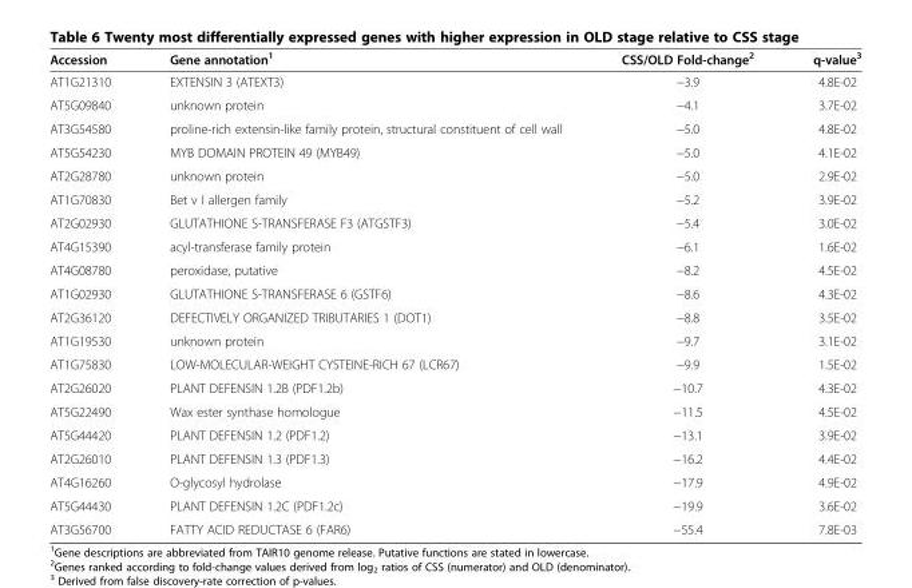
<table><thead><tr><td>Accession</td><td>Gene annotation<sup>1</sup></td><td>CSS/OLD Fold-change<sup>2</sup></td><td>q-value<sup>3</sup></td></tr></thead><tbody><tr><td>AT1G21310</td><td>EXTENSIN 3 (ATEXT3)</td><td>−3.9</td><td>4.8E-02</td></tr><tr><td>AT5G09840</td><td>unknown protein</td><td>−4.1</td><td>3.7E-02</td></tr><tr><td>AT3G54580</td><td>proline-rich extensin-like family protein, structural constituent of cell wall</td><td>−5.0</td><td>4.8E-02</td></tr><tr><td>AT5G54230</td><td>MYB DOMAIN PROTEIN 49 (MYB49)</td><td>−5.0</td><td>4.1E-02</td></tr><tr><td>AT2G28780</td><td>unknown protein</td><td>−5.0</td><td>2.9E-02</td></tr><tr><td>AT1G70830</td><td>Bet v I allergen family</td><td>−5.2</td><td>3.9E-02</td></tr><tr><td>AT2G02930</td><td>GLUTATHIONE S-TRANSFERASE F3 (ATGSTF3)</td><td>−5.4</td><td>3.0E-02</td></tr><tr><td>AT4G15390</td><td>acyl-transferase family protein</td><td>−6.1</td><td>1.6E-02</td></tr><tr><td>AT4G08780</td><td>peroxidase, putative</td><td>−8.2</td><td>4.5E-02</td></tr><tr><td>AT1G02930</td><td>GLUTATHIONE S-TRANSFERASE 6 (GSTF6)</td><td>−8.6</td><td>4.3E-02</td></tr><tr><td>AT2G36120</td><td>DEFECTIVELY ORGANIZED TRIBUTARIES 1 (DOT1)</td><td>−8.8</td><td>3.5E-02</td></tr><tr><td>AT1G19530</td><td>unknown protein</td><td>−9.7</td><td>3.1E-02</td></tr><tr><td>AT1G75830</td><td>LOW-MOLECULAR-WEIGHT CYSTEINE-RICH 67 (LCR67)</td><td>−9.9</td><td>1.5E-02</td></tr><tr><td>AT2G26020</td><td>PLANT DEFENSIN 1.2B (PDF1.2b)</td><td>−10.7</td><td>4.3E-02</td></tr><tr><td>AT5G22490</td><td>Wax ester synthase homologue</td><td>−11.5</td><td>4.5E-02</td></tr><tr><td>AT5G44420</td><td>PLANT DEFENSIN 1.2 (PDF1.2)</td><td>−13.1</td><td>3.9E-02</td></tr><tr><td>AT2G26010</td><td>PLANT DEFENSIN 1.3 (PDF1.3)</td><td>−16.2</td><td>4.4E-02</td></tr><tr><td>AT4G16260</td><td>O-glycosyl hydrolase</td><td>−17.9</td><td>4.9E-02</td></tr><tr><td>AT5G44430</td><td>PLANT DEFENSIN 1.2C (PDF1.2c)</td><td>−19.9</td><td>3.6E-02</td></tr><tr><td>AT3G56700</td><td>FATTY ACID REDUCTASE 6 (FAR6)</td><td>−55.4</td><td>7.8E-03</td></tr></tbody></table>